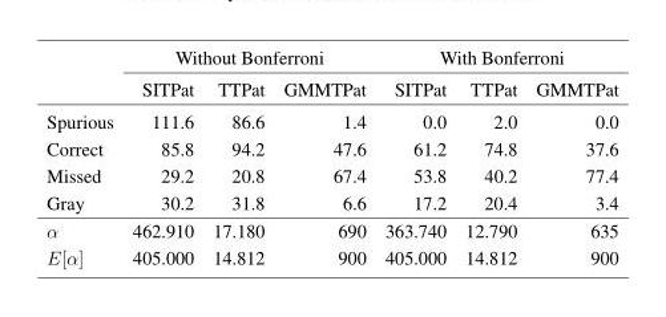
<table><thead><tr><td rowspan="2"></td><td colspan="3">Without Bonferroni</td><td colspan="3">With Bonferroni</td></tr><tr><td>SITPat</td><td>TTPat</td><td>GMMTPat</td><td>SITPat</td><td>TTPat</td><td>GMMTPat</td></tr></thead><tbody><tr><td>Spurious</td><td>111.6</td><td>86.6</td><td>1.4</td><td>0.0</td><td>2.0</td><td>0.0</td></tr><tr><td>Correct</td><td>85.8</td><td>94.2</td><td>47.6</td><td>61.2</td><td>74.8</td><td>37.6</td></tr><tr><td>Missed</td><td>29.2</td><td>20.8</td><td>67.4</td><td>53.8</td><td>40.2</td><td>77.4</td></tr><tr><td>Gray</td><td>30.2</td><td>31.8</td><td>6.6</td><td>17.2</td><td>20.4</td><td>3.4</td></tr><tr><td>α</td><td>462.910</td><td>17.180</td><td>690</td><td>363.740</td><td>12.790</td><td>635</td></tr><tr><td>E[α]</td><td>405.000</td><td>14.812</td><td>900</td><td>405.000</td><td>14.812</td><td>900</td></tr></tbody></table>